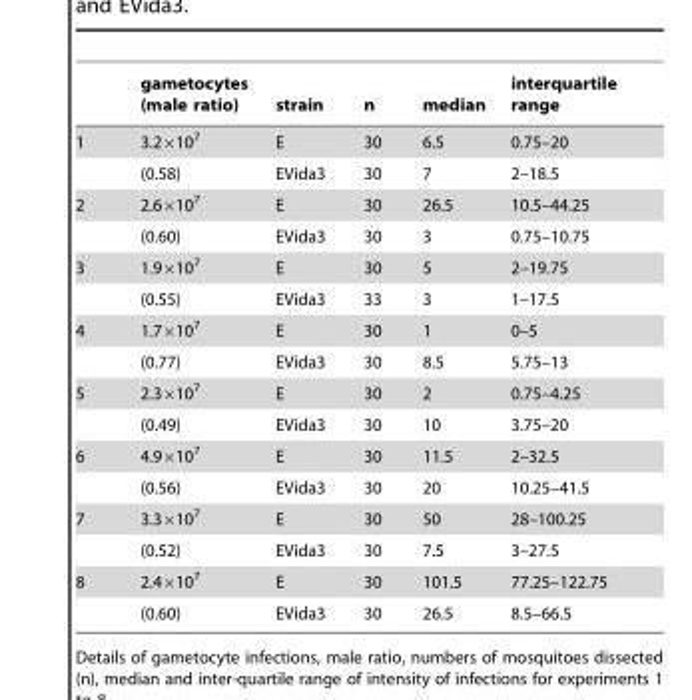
<table><thead><tr><td></td><td>gametocytes (male ratio)</td><td>strain</td><td>n</td><td>median</td><td>interquartile range</td></tr></thead><tbody><tr><td rowspan="2">1</td><td>3.2×10<sup>7</sup></td><td>E</td><td>30</td><td>6.5</td><td>0.75–20</td></tr><tr><td>(0.58)</td><td>EVida3</td><td>30</td><td>7</td><td>2–18.5</td></tr><tr><td rowspan="2">2</td><td>2.6×10<sup>7</sup></td><td>E</td><td>30</td><td>26.5</td><td>10.5–44.25</td></tr><tr><td>(0.60)</td><td>EVida3</td><td>30</td><td>3</td><td>0.75–10.75</td></tr><tr><td rowspan="2">3</td><td>1.9×10<sup>7</sup></td><td>E</td><td>30</td><td>5</td><td>2–19.75</td></tr><tr><td>(0.55)</td><td>EVida3</td><td>33</td><td>3</td><td>1–17.5</td></tr><tr><td rowspan="2">4</td><td>1.7×10<sup>7</sup></td><td>E</td><td>30</td><td>1</td><td>0–5</td></tr><tr><td>(0.77)</td><td>EVida3</td><td>30</td><td>8.5</td><td>5.75–13</td></tr><tr><td rowspan="2">5</td><td>2.3×10<sup>7</sup></td><td>E</td><td>30</td><td>2</td><td>0.75–4.25</td></tr><tr><td>(0.49)</td><td>EVida3</td><td>30</td><td>10</td><td>3.75–20</td></tr><tr><td rowspan="2">6</td><td>4.9×10<sup>7</sup></td><td>E</td><td>30</td><td>11.5</td><td>2–32.5</td></tr><tr><td>(0.56)</td><td>EVida3</td><td>30</td><td>20</td><td>10.25–41.5</td></tr><tr><td rowspan="2">7</td><td>3.3×10<sup>7</sup></td><td>E</td><td>30</td><td>50</td><td>28–100.25</td></tr><tr><td>(0.52)</td><td>EVida3</td><td>30</td><td>7.5</td><td>3–27.5</td></tr><tr><td rowspan="2">8</td><td>2.4×10<sup>7</sup></td><td>E</td><td>30</td><td>101.5</td><td>77.25–122.75</td></tr><tr><td>(0.60)</td><td>EVida3</td><td>30</td><td>26.5</td><td>8.5–66.5</td></tr></tbody></table>